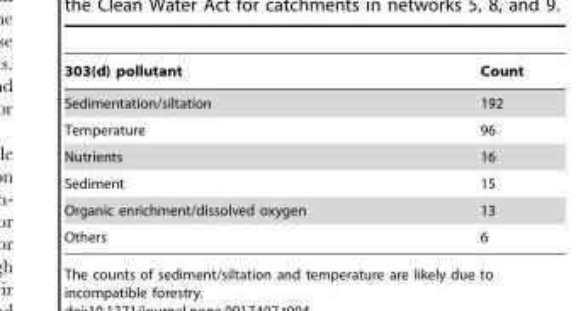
<table><thead><tr><td>303(d) pollutant</td><td>Count</td></tr></thead><tbody><tr><td>Sedimentation/siltation</td><td>192</td></tr><tr><td>Temperature</td><td>96</td></tr><tr><td>Nutrients</td><td>16</td></tr><tr><td>Sediment</td><td>15</td></tr><tr><td>Organic enrichment/dissolved oxygen</td><td>13</td></tr><tr><td>Others</td><td>6</td></tr></tbody></table>